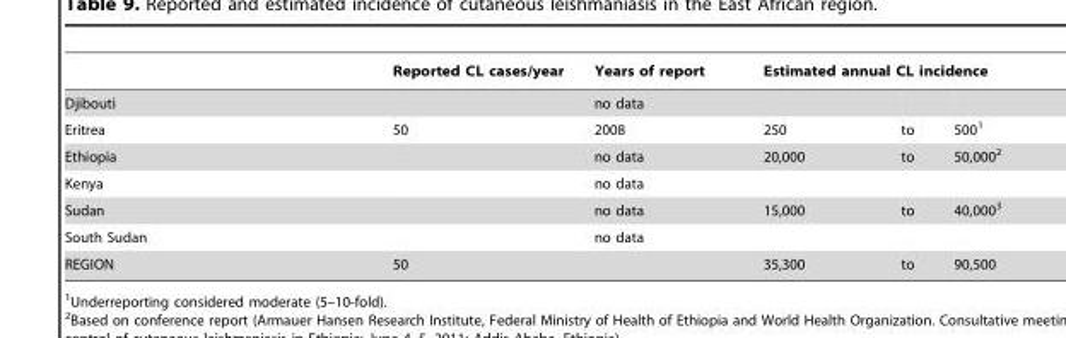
<table><thead><tr><td rowspan="2">Djibouti</td><td rowspan="2">Reported CL cases/year</td><td rowspan="2">Years of report no data</td><td colspan="3">Estimated annual CL incidence</td></tr><tr><td></td><td></td><td></td></tr></thead><tbody><tr><td>Eritrea</td><td>50</td><td>2008</td><td>250</td><td>to</td><td>500<sup>1</sup></td></tr><tr><td>Ethiopia</td><td></td><td>no data</td><td>20,000</td><td>to</td><td>50,000<sup>2</sup></td></tr><tr><td>Kenya</td><td></td><td>no data</td><td></td><td></td><td></td></tr><tr><td>Sudan</td><td></td><td>no data</td><td>15,000</td><td>to</td><td>40,000<sup>3</sup></td></tr><tr><td>South Sudan</td><td></td><td>no data</td><td></td><td></td><td></td></tr><tr><td>REGION</td><td>50</td><td></td><td>35,300</td><td>to</td><td>90,500</td></tr></tbody></table>